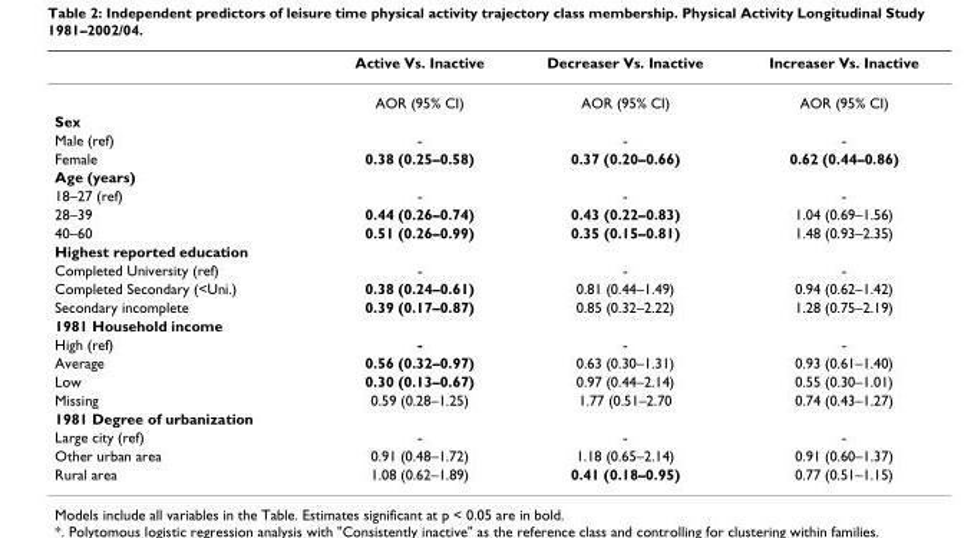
<table><thead><tr><td></td><td>Active Vs. Inactive</td><td>Decreaser Vs. Inactive</td><td>Increaser Vs. Inactive</td></tr></thead><tbody><tr><td></td><td>AOR (95% CI)</td><td>AOR (95% CI)</td><td>AOR (95% CI)</td></tr><tr><td colspan="4">Sex</td></tr><tr><td>Male (ref)</td><td>-</td><td>-</td><td>-</td></tr><tr><td>Female</td><td>0.38 (0.25–0.58)</td><td>0.37 (0.20–0.66)</td><td>0.62 (0.44–0.86)</td></tr><tr><td colspan="4">Age (years)</td></tr><tr><td>18–27 (ref)</td><td>-</td><td>-</td><td>-</td></tr><tr><td>28–39</td><td>0.44 (0.26–0.74)</td><td>0.43 (0.22–0.83)</td><td>1.04 (0.69–1.56)</td></tr><tr><td>40–60</td><td>0.51 (0.26–0.99)</td><td>0.35 (0.15–0.81)</td><td>1.48 (0.93–2.35)</td></tr><tr><td colspan="4">Highest reported education</td></tr><tr><td>Completed University (ref)</td><td>-</td><td>-</td><td>-</td></tr><tr><td>Completed Secondary (&lt;Uni.)</td><td>0.38 (0.24–0.61)</td><td>0.81 (0.44–1.49)</td><td>0.94 (0.62–1.42)</td></tr><tr><td>Secondary incomplete</td><td>0.39 (0.17–0.87)</td><td>0.85 (0.32–2.22)</td><td>1.28 (0.75–2.19)</td></tr><tr><td colspan="4">1981 Household income</td></tr><tr><td>High (ref)</td><td>-</td><td>-</td><td>-</td></tr><tr><td>Average</td><td>0.56 (0.32–0.97)</td><td>0.63 (0.30–1.31)</td><td>0.93 (0.61–1.40)</td></tr><tr><td>Low</td><td>0.30 (0.13–0.67)</td><td>0.97 (0.44–2.14)</td><td>0.55 (0.30–1.01)</td></tr><tr><td>Missing</td><td>0.59 (0.28–1.25)</td><td>1.77 (0.51–2.70</td><td>0.74 (0.43–1.27)</td></tr><tr><td colspan="4">1981 Degree of urbanization</td></tr><tr><td>Large city (ref)</td><td>-</td><td>-</td><td>-</td></tr><tr><td>Other urban area</td><td>0.91 (0.48–1.72)</td><td>1.18 (0.65–2.14)</td><td>0.91 (0.60–1.37)</td></tr><tr><td>Rural area</td><td>1.08 (0.62–1.89)</td><td>0.41 (0.18–0.95)</td><td>0.77 (0.51–1.15)</td></tr></tbody></table>